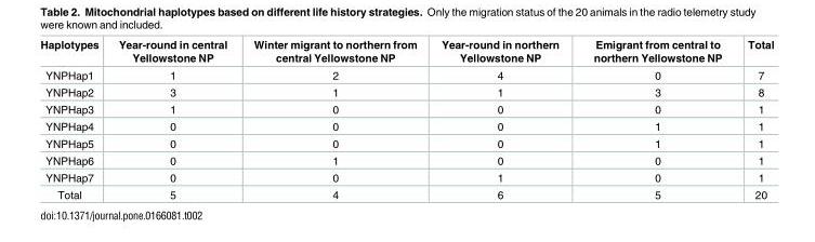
<table><thead><tr><td>Haplotypes</td><td>Year-round in central Yellowstone NP</td><td>Winter migrant to northern from central Yellowstone NP</td><td>Year-round in northern Yellowstone NP</td><td>Emigrant from central to northern Yellowstone NP</td><td>Total</td></tr></thead><tbody><tr><td>YNPHap1</td><td>1</td><td>2</td><td>4</td><td>0</td><td>7</td></tr><tr><td>YNPHap2</td><td>3</td><td>1</td><td>1</td><td>3</td><td>8</td></tr><tr><td>YNPHap3</td><td>1</td><td>0</td><td>0</td><td>0</td><td>1</td></tr><tr><td>YNPHap4</td><td>0</td><td>0</td><td>0</td><td>1</td><td>1</td></tr><tr><td>YNPHap5</td><td>0</td><td>0</td><td>0</td><td>1</td><td>1</td></tr><tr><td>YNPHap6</td><td>0</td><td>1</td><td>0</td><td>0</td><td>1</td></tr><tr><td>YNPHap7</td><td>0</td><td>0</td><td>1</td><td>0</td><td>1</td></tr><tr><td>Total</td><td>5</td><td>4</td><td>6</td><td>5</td><td>20</td></tr></tbody></table>